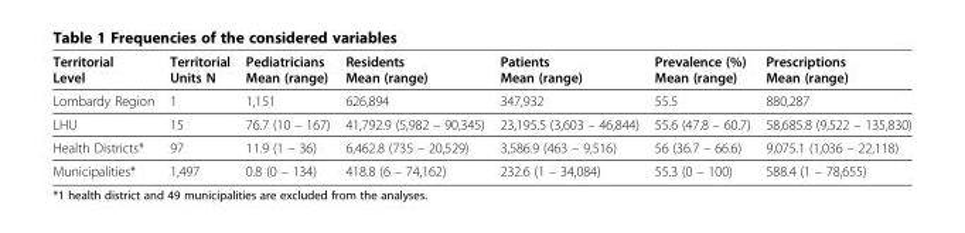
<table><thead><tr><td>Territorial Level</td><td>Territorial Units N</td><td>Pediatricians Mean (range)</td><td>Residents Mean (range)</td><td>Patients Mean (range)</td><td>Prevalence (%) Mean (range)</td><td>Prescriptions Mean (range)</td></tr></thead><tbody><tr><td>Lombardy Region</td><td>1</td><td>1,151</td><td>626,894</td><td>347,932</td><td>55.5</td><td>880,287</td></tr><tr><td>LHU</td><td>15</td><td>76.7 (10 – 167)</td><td>41,792.9 (5,982 – 90,345)</td><td>23,195.5 (3,603 – 46,844)</td><td>55.6 (47.8 – 60.7)</td><td>58,685.8 (9,522 – 135,830)</td></tr><tr><td>Health Districts*</td><td>97</td><td>11.9 (1 – 36)</td><td>6,462.8 (735 – 20,529)</td><td>3,586.9 (463 – 9,516)</td><td>56 (36.7 – 66.6)</td><td>9,075.1 (1,036 – 22,118)</td></tr><tr><td>Municipalities*</td><td>1,497</td><td>0.8 (0 – 134)</td><td>418.8 (6 – 74,162)</td><td>232.6 (1 – 34,084)</td><td>55.3 (0 – 100)</td><td>588.4 (1 – 78,655)</td></tr></tbody></table>